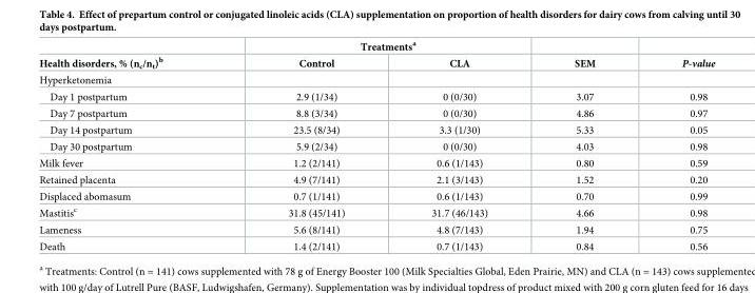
<table><thead><tr><td rowspan="2">Health disorders, % (n<sub>c</sub>/n<sub>t</sub>)<sup>b</sup></td><td colspan="2">Treatments<sup>a</sup></td><td rowspan="2">SEM</td><td rowspan="2">P-value</td></tr><tr><td>Control</td><td>CLA</td></tr></thead><tbody><tr><td colspan="5">Hyperketonemia</td></tr><tr><td>Day 1 postpartum</td><td>2.9 (1/34)</td><td>0 (0/30)</td><td>3.07</td><td>0.98</td></tr><tr><td>Day 7 postpartum</td><td>8.8 (3/34)</td><td>0 (0/30)</td><td>4.86</td><td>0.97</td></tr><tr><td>Day 14 postpartum</td><td>23.5 (8/34)</td><td>3.3 (1/30)</td><td>5.33</td><td>0.05</td></tr><tr><td>Day 30 postpartum</td><td>5.9 (2/34)</td><td>0 (0/30)</td><td>4.03</td><td>0.98</td></tr><tr><td>Milk fever</td><td>1.2 (2/141)</td><td>0.6 (1/143)</td><td>0.80</td><td>0.59</td></tr><tr><td>Retained placenta</td><td>4.9 (7/141)</td><td>2.1 (3/143)</td><td>1.52</td><td>0.20</td></tr><tr><td>Displaced abomasum</td><td>0.7 (1/141)</td><td>0.6 (1/143)</td><td>0.70</td><td>0.99</td></tr><tr><td>Mastitis<sup>c</sup></td><td>31.8 (45/141)</td><td>31.7 (46/143)</td><td>4.66</td><td>0.98</td></tr><tr><td>Lameness</td><td>5.6 (8/141)</td><td>4.8 (7/143)</td><td>1.94</td><td>0.75</td></tr><tr><td>Death</td><td>1.4 (2/141)</td><td>0.7 (1/143)</td><td>0.84</td><td>0.56</td></tr></tbody></table>